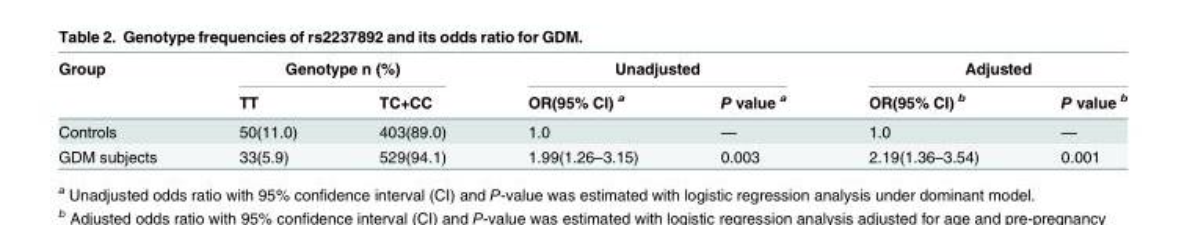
<table><thead><tr><td rowspan="2">Group</td><td colspan="2">Genotype n (%)</td><td colspan="2">Unadjusted</td><td colspan="2">Adjusted</td></tr><tr><td>TT</td><td>TC+CC</td><td>OR(95% CI) <sup>a</sup></td><td>P value <sup>a</sup></td><td>OR(95% CI) <sup>b</sup></td><td>P value <sup>b</sup></td></tr></thead><tbody><tr><td>Controls</td><td>50(11.0)</td><td>403(89.0)</td><td>1.0</td><td>—</td><td>1.0</td><td>—</td></tr><tr><td>GDM subjects</td><td>33(5.9)</td><td>529(94.1)</td><td>1.99(1.26–3.15)</td><td>0.003</td><td>2.19(1.36–3.54)</td><td>0.001</td></tr></tbody></table>